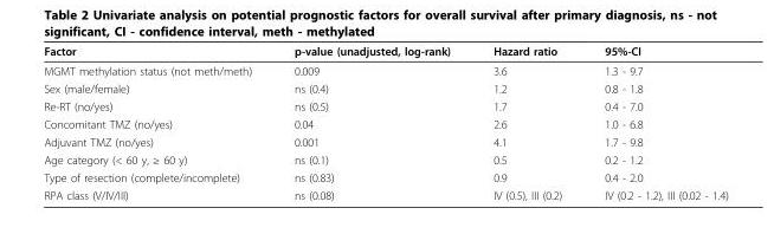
<table><thead><tr><td>Factor</td><td>p-value (unadjusted, log-rank)</td><td>Hazard ratio</td><td>95%-CI</td></tr></thead><tbody><tr><td>MGMT methylation status (not meth/meth)</td><td>0.009</td><td>3.6</td><td>1.3 - 9.7</td></tr><tr><td>Sex (male/female)</td><td>ns (0.4)</td><td>1.2</td><td>0.8 - 1.8</td></tr><tr><td>Re-RT (no/yes)</td><td>ns (0.5)</td><td>1.7</td><td>0.4 - 7.0</td></tr><tr><td>Concomitant TMZ (no/yes)</td><td>0.04</td><td>2.6</td><td>1.0 - 6.8</td></tr><tr><td>Adjuvant TMZ (no/yes)</td><td>0.001</td><td>4.1</td><td>1.7 - 9.8</td></tr><tr><td>Age category (&lt; 60 y, ≥ 60 y)</td><td>ns (0.1)</td><td>0.5</td><td>0.2 - 1.2</td></tr><tr><td>Type of resection (complete/incomplete)</td><td>ns (0.83)</td><td>0.9</td><td>0.4 - 2.0</td></tr><tr><td>RPA class (V/IV/III)</td><td>ns (0.08)</td><td>IV (0.5), III (0.2)</td><td>IV (0.2 - 1.2), III (0.02 - 1.4)</td></tr></tbody></table>